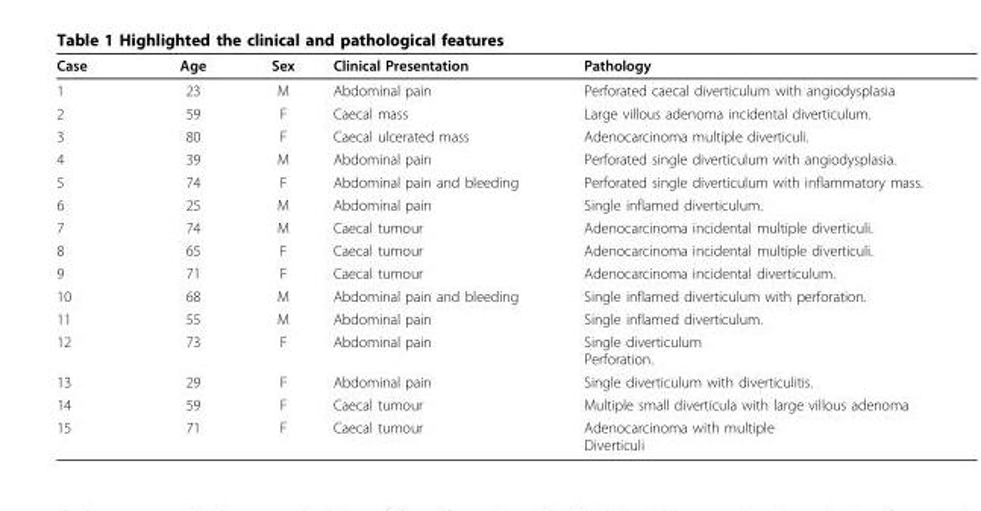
<table><thead><tr><td>Case</td><td>Age</td><td>Sex</td><td>Clinical Presentation</td><td>Pathology</td></tr></thead><tbody><tr><td>1</td><td>23</td><td>M</td><td>Abdominal pain</td><td>Perforated caecal diverticulum with angiodysplasia</td></tr><tr><td>2</td><td>59</td><td>F</td><td>Caecal mass</td><td>Large villous adenoma incidental diverticulum.</td></tr><tr><td>3</td><td>80</td><td>F</td><td>Caecal ulcerated mass</td><td>Adenocarcinoma multiple diverticuli.</td></tr><tr><td>4</td><td>39</td><td>M</td><td>Abdominal pain</td><td>Perforated single diverticulum with angiodysplasia.</td></tr><tr><td>5</td><td>74</td><td>F</td><td>Abdominal pain and bleeding</td><td>Perforated single diverticulum with inflammatory mass.</td></tr><tr><td>6</td><td>25</td><td>M</td><td>Abdominal pain</td><td>Single inflamed diverticulum.</td></tr><tr><td>7</td><td>74</td><td>M</td><td>Caecal tumour</td><td>Adenocarcinoma incidental multiple diverticuli.</td></tr><tr><td>8</td><td>65</td><td>F</td><td>Caecal tumour</td><td>Adenocarcinoma incidental multiple diverticuli.</td></tr><tr><td>9</td><td>71</td><td>F</td><td>Caecal tumour</td><td>Adenocarcinoma incidental diverticulum.</td></tr><tr><td>10</td><td>68</td><td>M</td><td>Abdominal pain and bleeding</td><td>Single inflamed diverticulum with perforation.</td></tr><tr><td>11</td><td>55</td><td>M</td><td>Abdominal pain</td><td>Single inflamed diverticulum.</td></tr><tr><td>12</td><td>73</td><td>F</td><td>Abdominal pain</td><td>Single diverticulum Perforation.</td></tr><tr><td>13</td><td>29</td><td>F</td><td>Abdominal pain</td><td>Single diverticulum with diverticulitis.</td></tr><tr><td>14</td><td>59</td><td>F</td><td>Caecal tumour</td><td>Multiple small diverticula with large villous adenoma</td></tr><tr><td>15</td><td>71</td><td>F</td><td>Caecal tumour</td><td>Adenocarcinoma with multiple Diverticuli</td></tr></tbody></table>